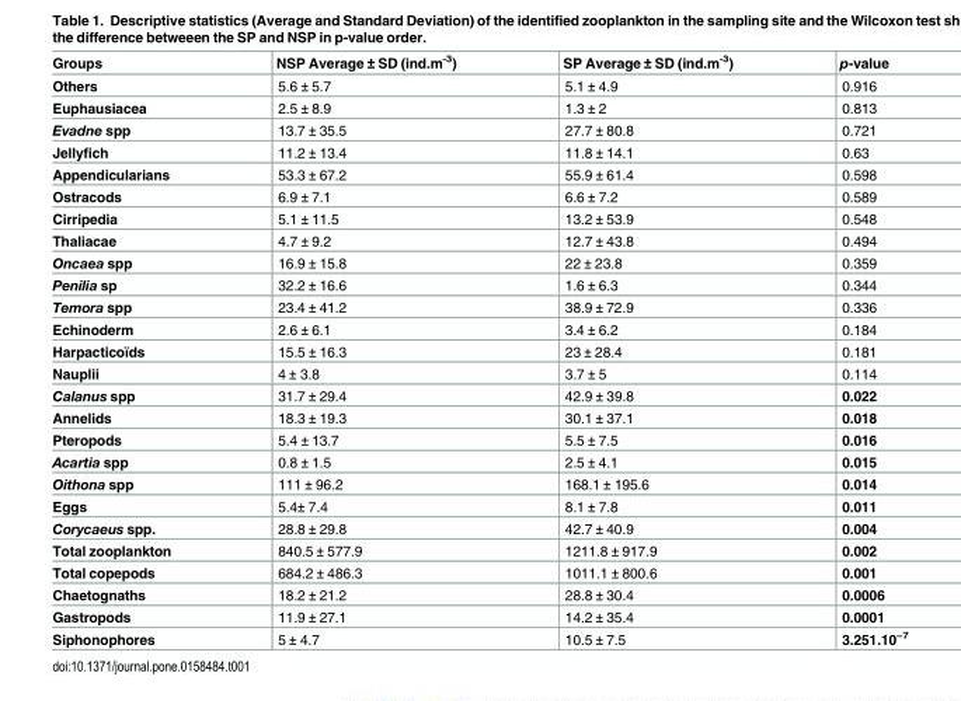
<table><thead><tr><td>Groups</td><td>NSP Average ± SD (ind.m<sup>-3</sup>)</td><td>SP Average ± SD (ind.m<sup>-3</sup>)</td><td>p-value</td></tr></thead><tbody><tr><td>Others</td><td>5.6 ± 5.7</td><td>5.1 ± 4.9</td><td>0.916</td></tr><tr><td>Euphausiacea</td><td>2.5 ± 8.9</td><td>1.3 ± 2</td><td>0.813</td></tr><tr><td>Evadne spp</td><td>13.7 ± 35.5</td><td>27.7 ± 80.8</td><td>0.721</td></tr><tr><td>Jellyfich</td><td>11.2 ± 13.4</td><td>11.8 ± 14.1</td><td>0.63</td></tr><tr><td>Appendicularians</td><td>53.3 ± 67.2</td><td>55.9 ± 61.4</td><td>0.598</td></tr><tr><td>Ostracods</td><td>6.9 ± 7.1</td><td>6.6 ± 7.2</td><td>0.589</td></tr><tr><td>Cirripedia</td><td>5.1 ± 11.5</td><td>13.2 ± 53.9</td><td>0.548</td></tr><tr><td>Thaliacae</td><td>4.7 ± 9.2</td><td>12.7 ± 43.8</td><td>0.494</td></tr><tr><td>Oncaea spp</td><td>16.9 ± 15.8</td><td>22 ± 23.8</td><td>0.359</td></tr><tr><td>Penilia sp</td><td>32.2 ± 16.6</td><td>1.6 ± 6.3</td><td>0.344</td></tr><tr><td>Temora spp</td><td>23.4 ± 41.2</td><td>38.9 ± 72.9</td><td>0.336</td></tr><tr><td>Echinoderm</td><td>2.6 ± 6.1</td><td>3.4 ± 6.2</td><td>0.184</td></tr><tr><td>Harpacticoïds</td><td>15.5 ± 16.3</td><td>23 ± 28.4</td><td>0.181</td></tr><tr><td>Nauplii</td><td>4 ± 3.8</td><td>3.7 ± 5</td><td>0.114</td></tr><tr><td>Calanus spp</td><td>31.7 ± 29.4</td><td>42.9 ± 39.8</td><td>0.022</td></tr><tr><td>Annelids</td><td>18.3 ± 19.3</td><td>30.1 ± 37.1</td><td>0.018</td></tr><tr><td>Pteropods</td><td>5.4 ± 13.7</td><td>5.5 ± 7.5</td><td>0.016</td></tr><tr><td>Acartia spp</td><td>0.8 ± 1.5</td><td>2.5 ± 4.1</td><td>0.015</td></tr><tr><td>Oithona spp</td><td>111 ± 96.2</td><td>168.1 ± 195.6</td><td>0.014</td></tr><tr><td>Eggs</td><td>5.4± 7.4</td><td>8.1 ± 7.8</td><td>0.011</td></tr><tr><td>Corycaeus spp.</td><td>28.8 ± 29.8</td><td>42.7 ± 40.9</td><td>0.004</td></tr><tr><td>Total zooplankton</td><td>840.5 ± 577.9</td><td>1211.8 ± 917.9</td><td>0.002</td></tr><tr><td>Total copepods</td><td>684.2 ± 486.3</td><td>1011.1 ± 800.6</td><td>0.001</td></tr><tr><td>Chaetognaths</td><td>18.2 ± 21.2</td><td>28.8 ± 30.4</td><td>0.0006</td></tr><tr><td>Gastropods</td><td>11.9 ± 27.1</td><td>14.2 ± 35.4</td><td>0.0001</td></tr><tr><td>Siphonophores</td><td>5 ± 4.7</td><td>10.5 ± 7.5</td><td>3.251.10<sup>−7</sup></td></tr></tbody></table>